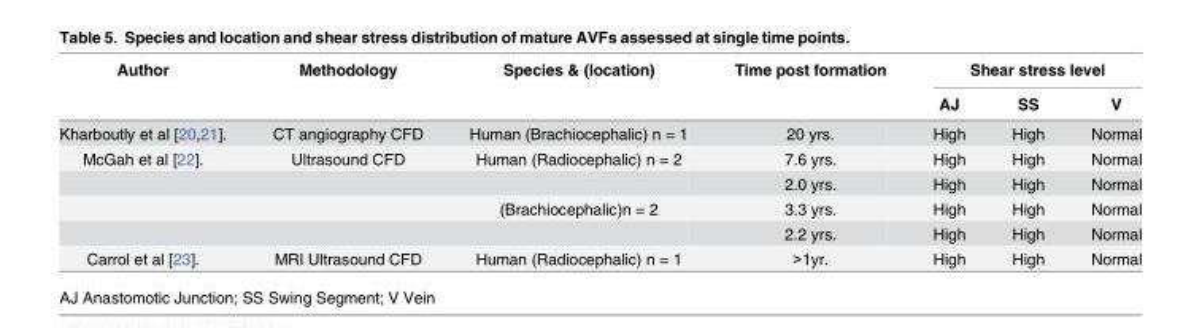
<table><thead><tr><td rowspan="2">Author</td><td rowspan="2">Methodology</td><td rowspan="2">Species &amp; (location)</td><td rowspan="2">Time post formation</td><td colspan="3">Shear stress level</td></tr><tr><td>AJ</td><td>SS</td><td>V</td></tr></thead><tbody><tr><td>Kharboutly et al [20,21].</td><td>CT angiography CFD</td><td>Human (Brachiocephalic) n = 1</td><td>20 yrs.</td><td>High</td><td>High</td><td>Normal</td></tr><tr><td rowspan="4">McGah et al [22].</td><td>Ultrasound CFD</td><td>Human (Radiocephalic) n = 2</td><td>7.6 yrs.</td><td>High</td><td>High</td><td>Normal</td></tr><tr><td></td><td></td><td>2.0 yrs.</td><td>High</td><td>High</td><td>Normal</td></tr><tr><td></td><td>(Brachiocephalic)n = 2</td><td>3.3 yrs.</td><td>High</td><td>High</td><td>Normal</td></tr><tr><td></td><td></td><td>2.2 yrs.</td><td>High</td><td>High</td><td>Normal</td></tr><tr><td>Carrol et al [23].</td><td>MRI Ultrasound CFD</td><td>Human (Radiocephalic) n = 1</td><td>&gt;1yr.</td><td>High</td><td>High</td><td>Normal</td></tr></tbody></table>